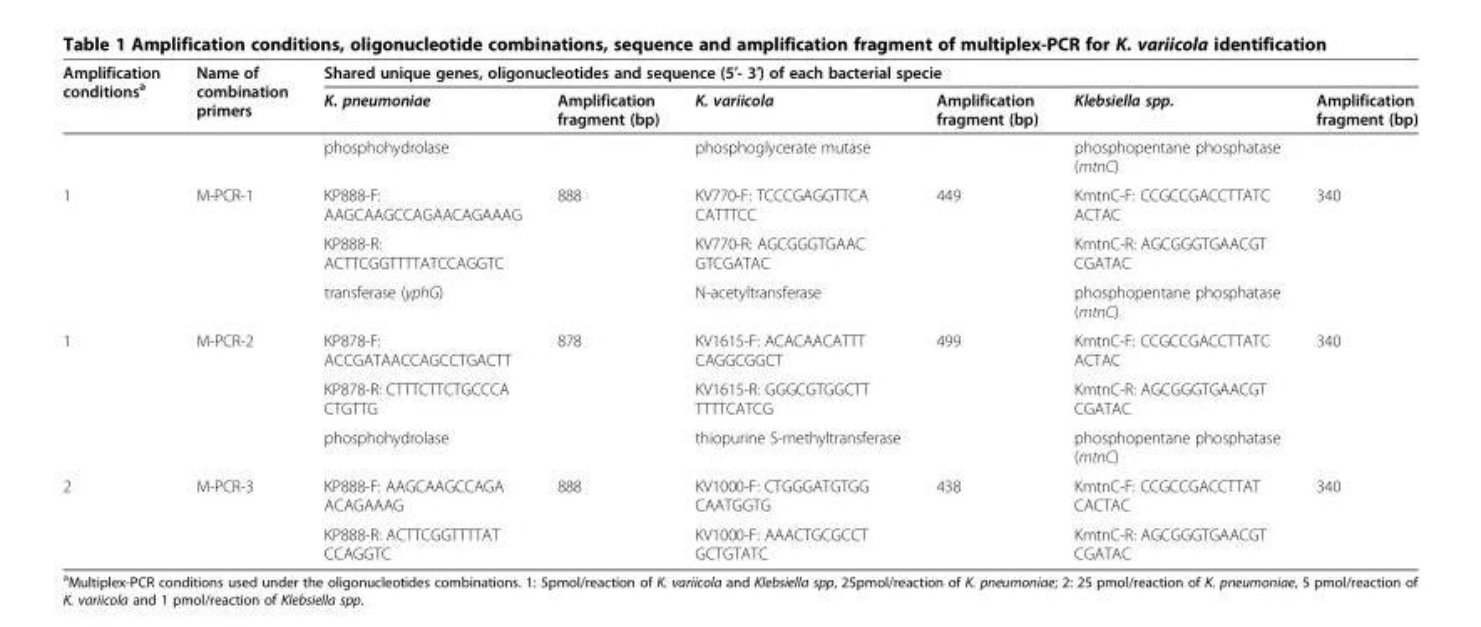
<table><thead><tr><td rowspan="2">Amplification conditions<sup>a</sup></td><td rowspan="2">Name of combination primers</td><td colspan="6">Shared unique genes, oligonucleotides and sequence (5′- 3′) of each bacterial specie</td></tr><tr><td>K. pneumoniae</td><td>Amplification fragment (bp)</td><td>K. variicola</td><td>Amplification fragment (bp)</td><td>Klebsiella spp.</td><td>Amplification fragment (bp)</td></tr></thead><tbody><tr><td></td><td></td><td>phosphohydrolase</td><td></td><td>phosphoglycerate mutase</td><td></td><td>phosphopentane phosphatase (mtnC)</td><td></td></tr><tr><td rowspan="3">1</td><td>M-PCR-1</td><td>KP888-F: AAGCAAGCCAGAACAGAAAG</td><td>888</td><td>KV770-F: TCCCGAGGTTCA CATTTCC</td><td>449</td><td>KmtnC-F: CCGCCGACCTTATC ACTAC</td><td>340</td></tr><tr><td></td><td>KP888-R: ACTTCGGTTTTATCCAGGTC</td><td></td><td>KV770-R: AGCGGGTGAAC GTCGATAC</td><td></td><td>KmtnC-R: AGCGGGTGAACGT CGATAC</td><td></td></tr><tr><td></td><td>transferase (yphG)</td><td></td><td>N-acetyltransferase</td><td></td><td>phosphopentane phosphatase (mtnC)</td><td></td></tr><tr><td rowspan="3">1</td><td>M-PCR-2</td><td>KP878-F: ACCGATAACCAGCCTGACTT</td><td>878</td><td>KV1615-F: ACACAACATTT CAGGCGGCT</td><td>499</td><td>KmtnC-F: CCGCCGACCTTATC ACTAC</td><td>340</td></tr><tr><td></td><td>KP878-R: CTTTCTTCTGCCCA CTGTTG</td><td></td><td>KV1615-R: GGGCGTGGCTT TTTTCATCG</td><td></td><td>KmtnC-R: AGCGGGTGAACGT CGATAC</td><td></td></tr><tr><td></td><td>phosphohydrolase</td><td></td><td>thiopurine S-methyltransferase</td><td></td><td>phosphopentane phosphatase (mtnC)</td><td></td></tr><tr><td rowspan="2">2</td><td>M-PCR-3</td><td>KP888-F: AAGCAAGCCAGA ACAGAAAG</td><td>888</td><td>KV1000-F: CTGGGATGTGG CAATGGTG</td><td>438</td><td>KmtnC-F: CCGCCGACCTTAT CACTAC</td><td>340</td></tr><tr><td></td><td>KP888-R: ACTTCGGTTTTAT CCAGGTC</td><td></td><td>KV1000-F: AAACTGCGCCT GCTGTATC</td><td></td><td>KmtnC-R: AGCGGGTGAACGT CGATAC</td><td></td></tr></tbody></table>